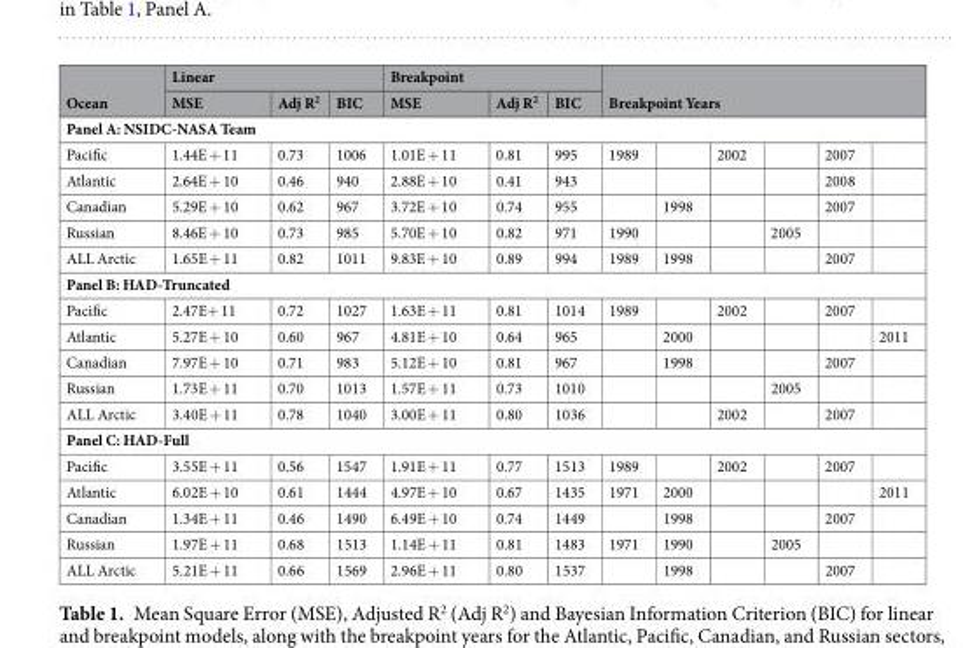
<table><thead><tr><td rowspan="2">Ocean</td><td colspan="3">Linear</td><td colspan="3">Breakpoint</td><td rowspan="2" colspan="6">Breakpoint Years</td></tr><tr><td>MSE</td><td>Adj R<sup>2</sup></td><td>BIC</td><td>MSE</td><td>Adj R<sup>2</sup></td><td>BIC</td></tr><tr><td colspan="13">Panel A: NSIDC-NASA Team</td></tr><tr><td>Pacific</td><td>1.44E + 11</td><td>0.73</td><td>1006</td><td>1.01E + 11</td><td>0.81</td><td>995</td><td>1989</td><td></td><td>2002</td><td></td><td>2007</td><td></td></tr></thead><tbody><tr><td>Atlantic</td><td>2.64E + 10</td><td>0.46</td><td>940</td><td>2.88E + 10</td><td>0.41</td><td>943</td><td></td><td></td><td></td><td></td><td>2008</td><td></td></tr><tr><td>Canadian</td><td>5.29E + 10</td><td>0.62</td><td>967</td><td>3.72E + 10</td><td>0.74</td><td>955</td><td></td><td>1998</td><td></td><td></td><td>2007</td><td></td></tr><tr><td>Russian</td><td>8.46E + 10</td><td>0.73</td><td>985</td><td>5.70E + 10</td><td>0.82</td><td>971</td><td>1990</td><td></td><td></td><td>2005</td><td></td><td></td></tr><tr><td>ALL Arctic</td><td>1.65E + 11</td><td>0.82</td><td>1011</td><td>9.83E + 10</td><td>0.89</td><td>994</td><td>1989</td><td>1998</td><td></td><td></td><td>2007</td><td></td></tr><tr><td colspan="13">Panel B: HAD-Truncated</td></tr><tr><td>Pacific</td><td>2.47E+ 11</td><td>0.72</td><td>1027</td><td>1.63E + 11</td><td>0.81</td><td>1014</td><td>1989</td><td></td><td>2002</td><td></td><td>2007</td><td></td></tr><tr><td>Atlantic</td><td>5.27E + 10</td><td>0.60</td><td>967</td><td>4.81E + 10</td><td>0.64</td><td>965</td><td></td><td>2000</td><td></td><td></td><td></td><td>2011</td></tr><tr><td>Canadian</td><td>7.97E + 10</td><td>0.71</td><td>983</td><td>5.12E + 10</td><td>0.81</td><td>967</td><td></td><td>1998</td><td></td><td></td><td>2007</td><td></td></tr><tr><td>Russian</td><td>1.73E + 11</td><td>0.70</td><td>1013</td><td>1.57E + 11</td><td>0.73</td><td>1010</td><td></td><td></td><td></td><td>2005</td><td></td><td></td></tr><tr><td>ALL Arctic</td><td>3.40E + 11</td><td>0.78</td><td>1040</td><td>3.00E + 11</td><td>0.80</td><td>1036</td><td></td><td></td><td>2002</td><td></td><td>2007</td><td></td></tr><tr><td colspan="13">Panel C: HAD-Full</td></tr><tr><td>Pacific</td><td>3.55E + 11</td><td>0.56</td><td>1547</td><td>1.91E + 11</td><td>0.77</td><td>1513</td><td>1989</td><td></td><td>2002</td><td></td><td>2007</td><td></td></tr><tr><td>Atlantic</td><td>6.02E + 10</td><td>0.61</td><td>1444</td><td>4.97E + 10</td><td>0.67</td><td>1435</td><td>1971</td><td>2000</td><td></td><td></td><td></td><td>2011</td></tr><tr><td>Canadian</td><td>1.34E + 11</td><td>0.46</td><td>1490</td><td>6.49E + 10</td><td>0.74</td><td>1449</td><td></td><td>1998</td><td></td><td></td><td>2007</td><td></td></tr><tr><td>Russian</td><td>1.97E + 11</td><td>0.68</td><td>1513</td><td>1.14E + 11</td><td>0.81</td><td>1483</td><td>1971</td><td>1990</td><td></td><td>2005</td><td></td><td></td></tr><tr><td>ALL Arctic</td><td>5.21E + 11</td><td>0.66</td><td>1569</td><td>2.96E + 11</td><td>0.80</td><td>1537</td><td></td><td>1998</td><td></td><td></td><td>2007</td><td></td></tr></tbody></table>